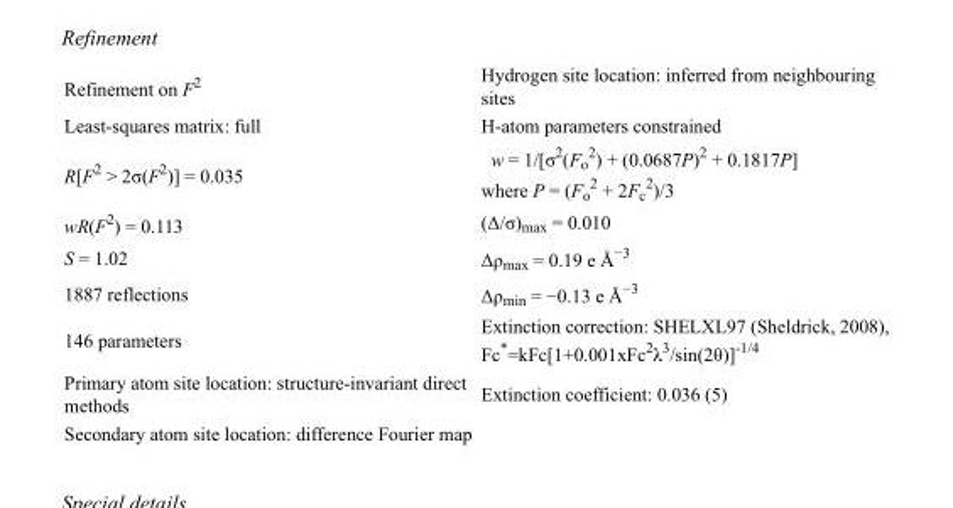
<table><tbody><tr><td>Refinement on F<sup>2</sup></td><td>Hydrogen site location: inferred from neighbouring sites</td></tr><tr><td>Least-squares matrix: full</td><td>H-atom parameters constrained</td></tr><tr><td>R[F<sup>2</sup> &gt; 2σ(F<sup>2</sup>)] = 0.035</td><td>w = 1/[σ<sup>2</sup>(F<sub>o</sub> <sup>2</sup>) + (0.0687P)<sup>2</sup> + 0.1817P] where P = (F<sub>o</sub> <sup>2</sup> + 2F<sub>c</sub> <sup>2</sup>)/3</td></tr><tr><td>wR(F<sup>2</sup>) = 0.113</td><td>(Δ/σ)<sub>max</sub> = 0.010</td></tr><tr><td>S = 1.02</td><td>Δρ<sub>max</sub> = 0.19 e Å<sup>−3</sup></td></tr><tr><td>1887 reflections</td><td>Δρ<sub>min</sub> = −0.13 e Å<sup>−3</sup></td></tr><tr><td>146 parameters</td><td>Extinction correction: SHELXL97 (Sheldrick, 2008), Fc*=kFc[1+0.001xFc<sup>2</sup>λ<sup>3</sup>/sin(2θ)]<sup>-1/4</sup></td></tr><tr><td>Primary atom site location: structure-invariant direct methods</td><td>Extinction coefficient: 0.036 (5)</td></tr><tr><td>Secondary atom site location: difference Fourier map</td><td></td></tr></tbody></table>